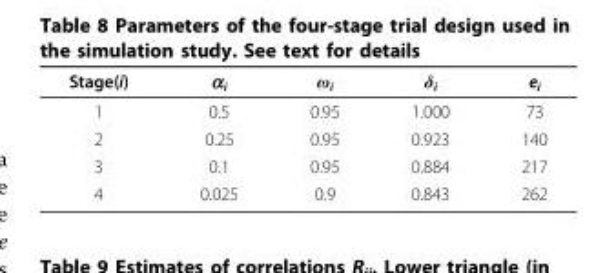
<table><thead><tr><td>Stage(i)</td><td>α<sub>i</sub></td><td>ω<sub>i</sub></td><td>δ<sub>i</sub></td><td>e<sub>i</sub></td></tr></thead><tbody><tr><td>1</td><td>0.5</td><td>0.95</td><td>1.000</td><td>73</td></tr><tr><td>2</td><td>0.25</td><td>0.95</td><td>0.923</td><td>140</td></tr><tr><td>3</td><td>0.1</td><td>0.95</td><td>0.884</td><td>217</td></tr><tr><td>4</td><td>0.025</td><td>0.9</td><td>0.843</td><td>262</td></tr></tbody></table>